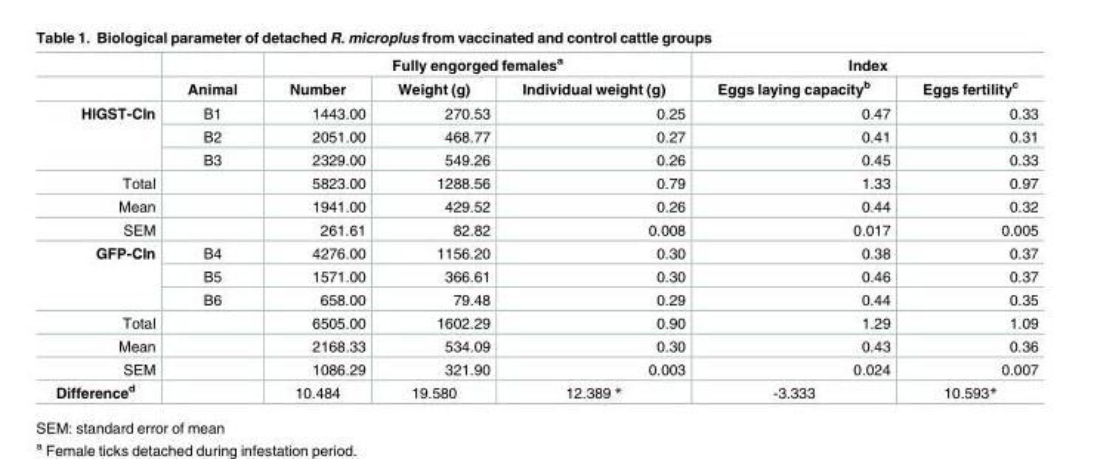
<table><thead><tr><td rowspan="2"></td><td rowspan="2">Animal</td><td colspan="3">Fully engorged females<sup>a</sup></td><td colspan="2">Index</td></tr><tr><td>Number</td><td>Weight (g)</td><td>Individual weight (g)</td><td>Eggs laying capacity<sup>b</sup></td><td>Eggs fertility<sup>c</sup></td></tr></thead><tbody><tr><td rowspan="3">HlGST-Cln</td><td>B1</td><td>1443.00</td><td>270.53</td><td>0.25</td><td>0.47</td><td>0.33</td></tr><tr><td>B2</td><td>2051.00</td><td>468.77</td><td>0.27</td><td>0.41</td><td>0.31</td></tr><tr><td>B3</td><td>2329.00</td><td>549.26</td><td>0.26</td><td>0.45</td><td>0.33</td></tr><tr><td>Total</td><td></td><td>5823.00</td><td>1288.56</td><td>0.79</td><td>1.33</td><td>0.97</td></tr><tr><td>Mean</td><td></td><td>1941.00</td><td>429.52</td><td>0.26</td><td>0.44</td><td>0.32</td></tr><tr><td>SEM</td><td></td><td>261.61</td><td>82.82</td><td>0.008</td><td>0.017</td><td>0.005</td></tr><tr><td rowspan="3">GFP-Cln</td><td>B4</td><td>4276.00</td><td>1156.20</td><td>0.30</td><td>0.38</td><td>0.37</td></tr><tr><td>B5</td><td>1571.00</td><td>366.61</td><td>0.30</td><td>0.46</td><td>0.37</td></tr><tr><td>B6</td><td>658.00</td><td>79.48</td><td>0.29</td><td>0.44</td><td>0.35</td></tr><tr><td>Total</td><td></td><td>6505.00</td><td>1602.29</td><td>0.90</td><td>1.29</td><td>1.09</td></tr><tr><td>Mean</td><td></td><td>2168.33</td><td>534.09</td><td>0.30</td><td>0.43</td><td>0.36</td></tr><tr><td>SEM</td><td></td><td>1086.29</td><td>321.90</td><td>0.003</td><td>0.024</td><td>0.007</td></tr><tr><td>Difference<sup>d</sup></td><td></td><td>10.484</td><td>19.580</td><td>12.389 *</td><td>-3.333</td><td>10.593*</td></tr></tbody></table>